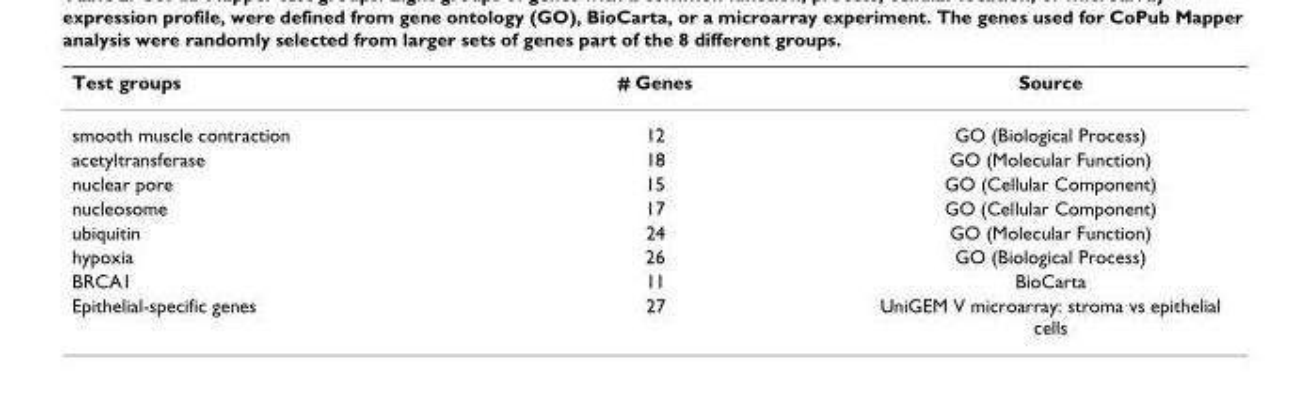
<table><thead><tr><td>Test groups</td><td># Genes</td><td>Source</td></tr></thead><tbody><tr><td>smooth muscle contraction</td><td>12</td><td>GO (Biological Process)</td></tr><tr><td>acetyltransferase</td><td>18</td><td>GO (Molecular Function)</td></tr><tr><td>nuclear pore</td><td>15</td><td>GO (Cellular Component)</td></tr><tr><td>nucleosome</td><td>17</td><td>GO (Cellular Component)</td></tr><tr><td>ubiquitin</td><td>24</td><td>GO (Molecular Function)</td></tr><tr><td>hypoxia</td><td>26</td><td>GO (Biological Process)</td></tr><tr><td>BRCA1</td><td>11</td><td>BioCarta</td></tr><tr><td>Epithelial-specific genes</td><td>27</td><td>UniGEM V microarray: stroma vs epithelial cells</td></tr></tbody></table>